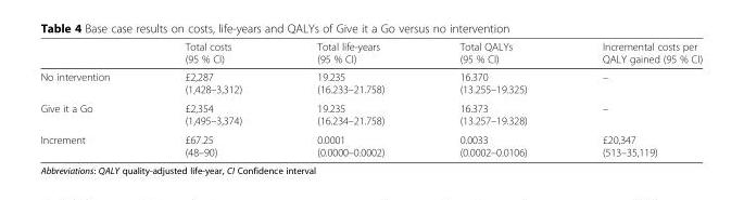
<table><thead><tr><td></td><td>Total costs (95 % CI)</td><td>Total life-years (95 % CI)</td><td>Total QALYs (95 % CI)</td><td>Incremental costs per QALY gained (95 % CI)</td></tr></thead><tbody><tr><td>No intervention</td><td>£2,287 (1,428–3,312)</td><td>19.235 (16.233–21.758)</td><td>16.370 (13.255–19.325)</td><td>–</td></tr><tr><td>Give it a Go</td><td>£2,354 (1,495–3,374)</td><td>19.235 (16.234–21.758)</td><td>16.373 (13.257–19.328)</td><td>–</td></tr><tr><td>Increment</td><td>£67.25 (48–90)</td><td>0.0001 (0.0000–0.0002)</td><td>0.0033 (0.0002–0.0106)</td><td>£20,347 (513–35,119)</td></tr></tbody></table>